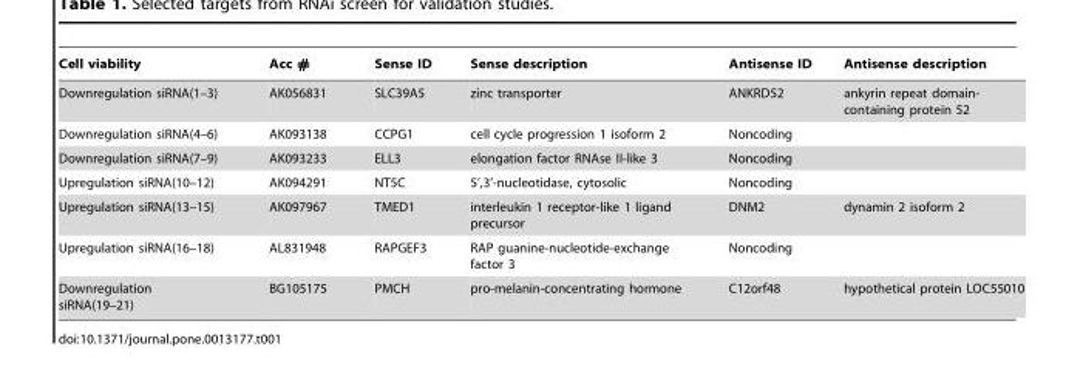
<table><thead><tr><td>Cell viability</td><td>Acc #</td><td>Sense ID</td><td>Sense description</td><td>Antisense ID</td><td>Antisense description</td></tr></thead><tbody><tr><td>Downregulation siRNA(1–3)</td><td>AK056831</td><td>SLC39A5</td><td>zinc transporter</td><td>ANKRD52</td><td>ankyrin repeat domain- containing protein 52</td></tr><tr><td>Downregulation siRNA(4–6)</td><td>AK093138</td><td>CCPG1</td><td>cell cycle progression 1 isoform 2</td><td>Noncoding</td><td></td></tr><tr><td>Downregulation siRNA(7–9)</td><td>AK093233</td><td>ELL3</td><td>elongation factor RNAse II-like 3</td><td>Noncoding</td><td></td></tr><tr><td>Upregulation siRNA(10–12)</td><td>AK094291</td><td>NT5C</td><td>5’,3’-nucleotidase, cytosolic</td><td>Noncoding</td><td></td></tr><tr><td>Upregulation siRNA(13–15)</td><td>AK097967</td><td>TMED1</td><td>interleukin 1 receptor-like 1 ligand precursor</td><td>DNM2</td><td>dynamin 2 isoform 2</td></tr><tr><td>Upregulation siRNA(16–18)</td><td>AL831948</td><td>RAPGEF3</td><td>RAP guanine-nucleotide-exchange factor 3</td><td>Noncoding</td><td></td></tr><tr><td>Downregulation siRNA(19–21)</td><td>BG105175</td><td>PMCH</td><td>pro-melanin-concentrating hormone</td><td>C12orf48</td><td>hypothetical protein LOC55010</td></tr></tbody></table>